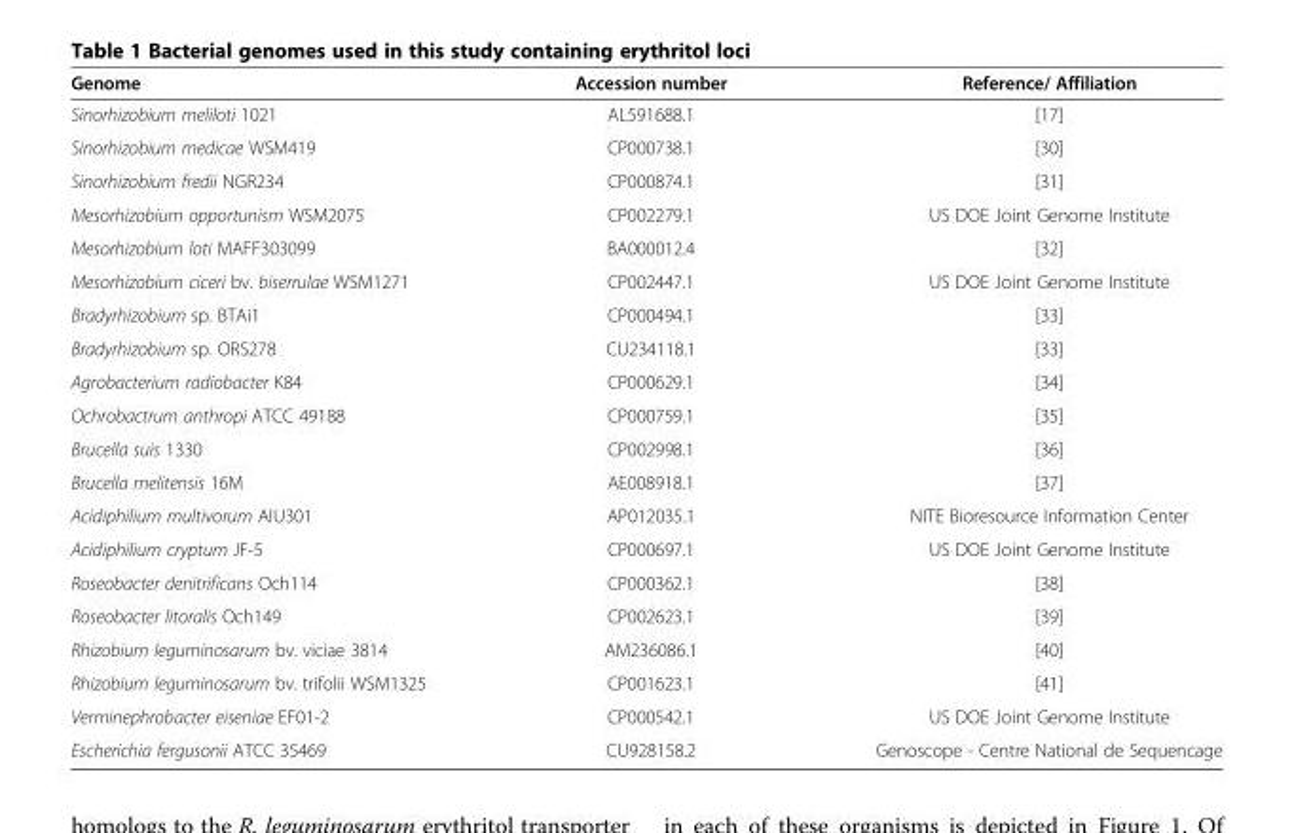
<table><thead><tr><td>Genome</td><td>Accession number</td><td>Reference/ Affiliation</td></tr></thead><tbody><tr><td>Sinorhizobium meliloti 1021</td><td>AL591688.1</td><td>[17]</td></tr><tr><td>Sinorhizobium medicae WSM419</td><td>CP000738.1</td><td>[30]</td></tr><tr><td>Sinorhizobium fredii NGR234</td><td>CP000874.1</td><td>[31]</td></tr><tr><td>Mesorhizobium opportunism WSM2075</td><td>CP002279.1</td><td>US DOE Joint Genome Institute</td></tr><tr><td>Mesorhizobium loti MAFF303099</td><td>BA000012.4</td><td>[32]</td></tr><tr><td>Mesorhizobium ciceri bv. biserrulae WSM1271</td><td>CP002447.1</td><td>US DOE Joint Genome Institute</td></tr><tr><td>Bradyrhizobium sp. BTAi1</td><td>CP000494.1</td><td>[33]</td></tr><tr><td>Bradyrhizobium sp. ORS278</td><td>CU234118.1</td><td>[33]</td></tr><tr><td>Agrobacterium radiobacter K84</td><td>CP000629.1</td><td>[34]</td></tr><tr><td>Ochrobactrum anthropi ATCC 49188</td><td>CP000759.1</td><td>[35]</td></tr><tr><td>Brucella suis 1330</td><td>CP002998.1</td><td>[36]</td></tr><tr><td>Brucella melitensis 16M</td><td>AE008918.1</td><td>[37]</td></tr><tr><td>Acidiphilium multivorum AIU301</td><td>AP012035.1</td><td>NITE Bioresource Information Center</td></tr><tr><td>Acidiphilium cryptum JF-5</td><td>CP000697.1</td><td>US DOE Joint Genome Institute</td></tr><tr><td>Roseobacter denitrificans Och114</td><td>CP000362.1</td><td>[38]</td></tr><tr><td>Roseobacter litoralis Och149</td><td>CP002623.1</td><td>[39]</td></tr><tr><td>Rhizobium leguminosarum bv. viciae 3814</td><td>AM236086.1</td><td>[40]</td></tr><tr><td>Rhizobium leguminosarum bv. trifolii WSM1325</td><td>CP001623.1</td><td>[41]</td></tr><tr><td>Verminephrobacter eiseniae EF01-2</td><td>CP000542.1</td><td>US DOE Joint Genome Institute</td></tr><tr><td>Escherichia fergusonii ATCC 35469</td><td>CU928158.2</td><td>Genoscope - Centre National de Sequencage</td></tr></tbody></table>